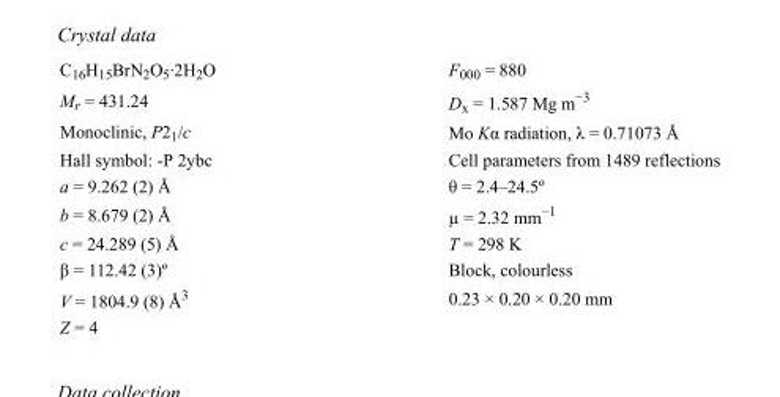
<table><tbody><tr><td>C<sub>16</sub>H<sub>15</sub>BrN<sub>2</sub>O<sub>5</sub>·2H<sub>2</sub>O</td><td>F000 = 880</td></tr><tr><td>M<sub>r</sub> = 431.24</td><td>D<sub>x</sub> = 1.587 Mg m<sup>−3</sup></td></tr><tr><td>Monoclinic, P2<sub>1</sub>/c</td><td>Mo Kα radiation, λ = 0.71073 Å</td></tr><tr><td>Hall symbol: -P 2ybc</td><td>Cell parameters from 1489 reflections</td></tr><tr><td>a = 9.262 (2) Å</td><td>θ = 2.4–24.5º</td></tr><tr><td>b = 8.679 (2) Å</td><td>µ = 2.32 mm<sup>−1</sup></td></tr><tr><td>c = 24.289 (5) Å</td><td>T = 298 K</td></tr><tr><td>β = 112.42 (3)º</td><td>Block, colourless</td></tr><tr><td>V = 1804.9 (8) Å<sup>3</sup></td><td>0.23 × 0.20 × 0.20 mm</td></tr><tr><td>Z = 4</td><td></td></tr></tbody></table>